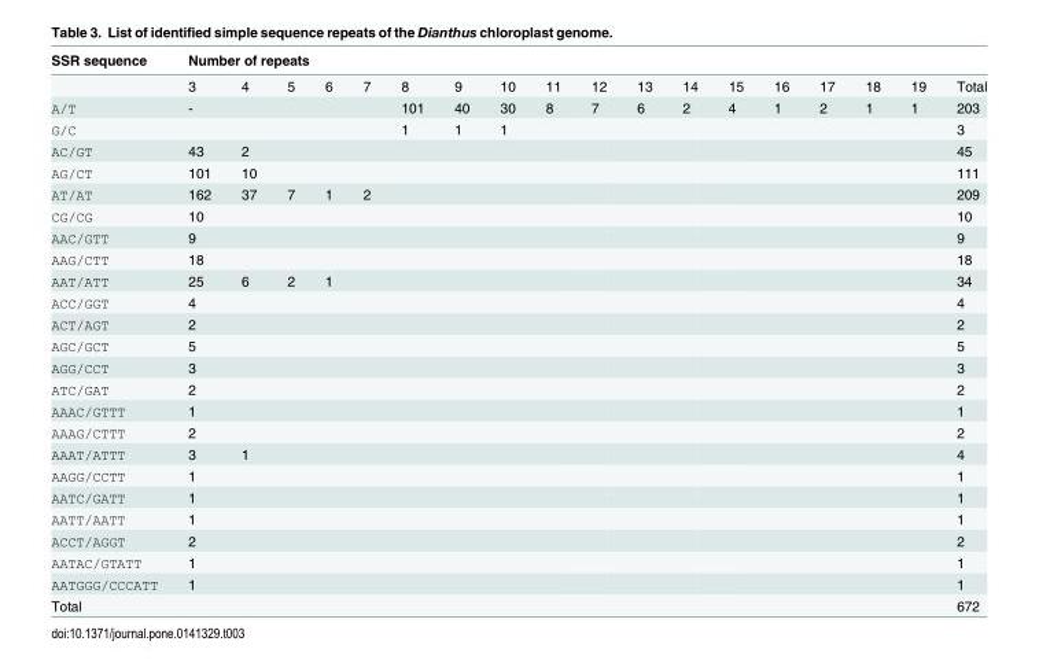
<table><thead><tr><td rowspan="2">SSR sequence</td><td colspan="18">Number of repeats</td></tr><tr><td>3</td><td>4</td><td>5</td><td>6</td><td>7</td><td>8</td><td>9</td><td>10</td><td>11</td><td>12</td><td>13</td><td>14</td><td>15</td><td>16</td><td>17</td><td>18</td><td>19</td><td>Total</td></tr></thead><tbody><tr><td>A/T</td><td>-</td><td></td><td></td><td></td><td></td><td>101</td><td>40</td><td>30</td><td>8</td><td>7</td><td>6</td><td>2</td><td>4</td><td>1</td><td>2</td><td>1</td><td>1</td><td>203</td></tr><tr><td>G/C</td><td></td><td></td><td></td><td></td><td></td><td>1</td><td>1</td><td>1</td><td></td><td></td><td></td><td></td><td></td><td></td><td></td><td></td><td></td><td>3</td></tr><tr><td>AC/GT</td><td>43</td><td>2</td><td></td><td></td><td></td><td></td><td></td><td></td><td></td><td></td><td></td><td></td><td></td><td></td><td></td><td></td><td></td><td>45</td></tr><tr><td>AG/CT</td><td>101</td><td>10</td><td></td><td></td><td></td><td></td><td></td><td></td><td></td><td></td><td></td><td></td><td></td><td></td><td></td><td></td><td></td><td>111</td></tr><tr><td>AT/AT</td><td>162</td><td>37</td><td>7</td><td>1</td><td>2</td><td></td><td></td><td></td><td></td><td></td><td></td><td></td><td></td><td></td><td></td><td></td><td></td><td>209</td></tr><tr><td>CG/CG</td><td>10</td><td></td><td></td><td></td><td></td><td></td><td></td><td></td><td></td><td></td><td></td><td></td><td></td><td></td><td></td><td></td><td></td><td>10</td></tr><tr><td>AAC/GTT</td><td>9</td><td></td><td></td><td></td><td></td><td></td><td></td><td></td><td></td><td></td><td></td><td></td><td></td><td></td><td></td><td></td><td></td><td>9</td></tr><tr><td>AAG/CTT</td><td>18</td><td></td><td></td><td></td><td></td><td></td><td></td><td></td><td></td><td></td><td></td><td></td><td></td><td></td><td></td><td></td><td></td><td>18</td></tr><tr><td>AAT/ATT</td><td>25</td><td>6</td><td>2</td><td>1</td><td></td><td></td><td></td><td></td><td></td><td></td><td></td><td></td><td></td><td></td><td></td><td></td><td></td><td>34</td></tr><tr><td>ACC/GGT</td><td>4</td><td></td><td></td><td></td><td></td><td></td><td></td><td></td><td></td><td></td><td></td><td></td><td></td><td></td><td></td><td></td><td></td><td>4</td></tr><tr><td>ACT/AGT</td><td>2</td><td></td><td></td><td></td><td></td><td></td><td></td><td></td><td></td><td></td><td></td><td></td><td></td><td></td><td></td><td></td><td></td><td>2</td></tr><tr><td>AGC/GCT</td><td>5</td><td></td><td></td><td></td><td></td><td></td><td></td><td></td><td></td><td></td><td></td><td></td><td></td><td></td><td></td><td></td><td></td><td>5</td></tr><tr><td>AGG/CCT</td><td>3</td><td></td><td></td><td></td><td></td><td></td><td></td><td></td><td></td><td></td><td></td><td></td><td></td><td></td><td></td><td></td><td></td><td>3</td></tr><tr><td>ATC/GAT</td><td>2</td><td></td><td></td><td></td><td></td><td></td><td></td><td></td><td></td><td></td><td></td><td></td><td></td><td></td><td></td><td></td><td></td><td>2</td></tr><tr><td>AAAC/GTTT</td><td>1</td><td></td><td></td><td></td><td></td><td></td><td></td><td></td><td></td><td></td><td></td><td></td><td></td><td></td><td></td><td></td><td></td><td>1</td></tr><tr><td>AAAG/CTTT</td><td>2</td><td></td><td></td><td></td><td></td><td></td><td></td><td></td><td></td><td></td><td></td><td></td><td></td><td></td><td></td><td></td><td></td><td>2</td></tr><tr><td>AAAT/ATTT</td><td>3</td><td>1</td><td></td><td></td><td></td><td></td><td></td><td></td><td></td><td></td><td></td><td></td><td></td><td></td><td></td><td></td><td></td><td>4</td></tr><tr><td>AAGG/CCTT</td><td>1</td><td></td><td></td><td></td><td></td><td></td><td></td><td></td><td></td><td></td><td></td><td></td><td></td><td></td><td></td><td></td><td></td><td>1</td></tr><tr><td>AATC/GATT</td><td>1</td><td></td><td></td><td></td><td></td><td></td><td></td><td></td><td></td><td></td><td></td><td></td><td></td><td></td><td></td><td></td><td></td><td>1</td></tr><tr><td>AATT/AATT</td><td>1</td><td></td><td></td><td></td><td></td><td></td><td></td><td></td><td></td><td></td><td></td><td></td><td></td><td></td><td></td><td></td><td></td><td>1</td></tr><tr><td>ACCT/AGGT</td><td>2</td><td></td><td></td><td></td><td></td><td></td><td></td><td></td><td></td><td></td><td></td><td></td><td></td><td></td><td></td><td></td><td></td><td>2</td></tr><tr><td>AATAC/GTATT</td><td>1</td><td></td><td></td><td></td><td></td><td></td><td></td><td></td><td></td><td></td><td></td><td></td><td></td><td></td><td></td><td></td><td></td><td>1</td></tr><tr><td>AATGGG/CCCATT</td><td>1</td><td></td><td></td><td></td><td></td><td></td><td></td><td></td><td></td><td></td><td></td><td></td><td></td><td></td><td></td><td></td><td></td><td>1</td></tr><tr><td>Total</td><td></td><td></td><td></td><td></td><td></td><td></td><td></td><td></td><td></td><td></td><td></td><td></td><td></td><td></td><td></td><td></td><td></td><td>672</td></tr></tbody></table>